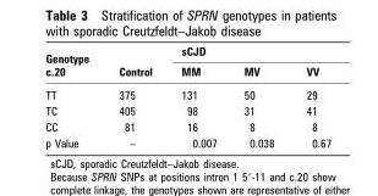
<table><thead><tr><td rowspan="2">Genotype c.20</td><td rowspan="2">Control</td><td colspan="3">sCJD</td></tr><tr><td>MM</td><td>MV</td><td>VV</td></tr></thead><tbody><tr><td>TT</td><td>375</td><td>131</td><td>50</td><td>29</td></tr><tr><td>TC</td><td>405</td><td>98</td><td>31</td><td>41</td></tr><tr><td>CC</td><td>81</td><td>16</td><td>8</td><td>8</td></tr><tr><td>p Value</td><td>–</td><td>0.007</td><td>0.038</td><td>0.67</td></tr></tbody></table>